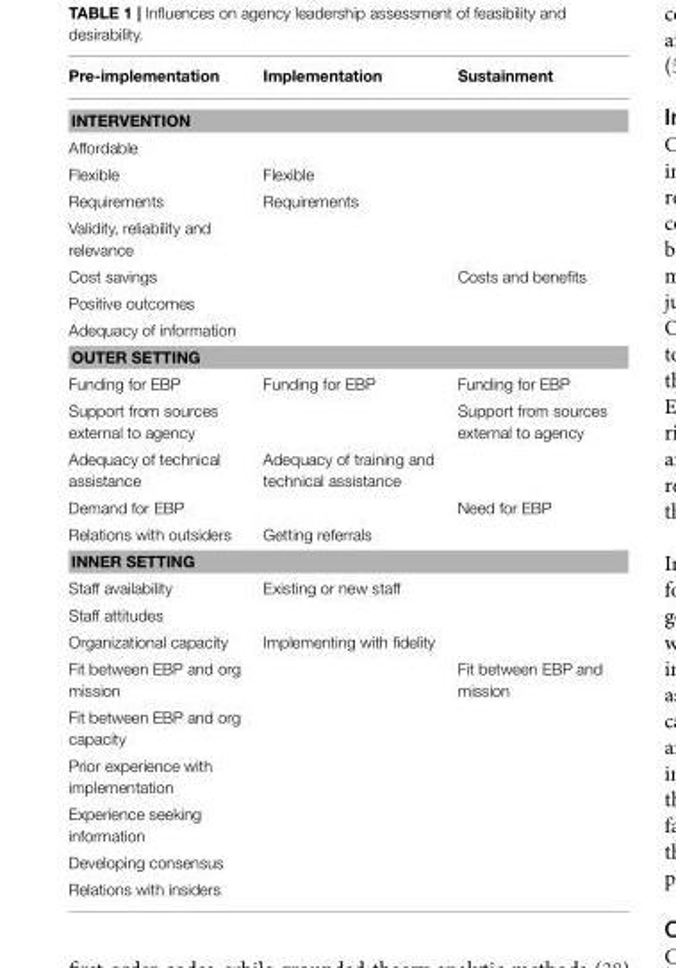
<table><thead><tr><td>Pre-implementation</td><td>Implementation</td><td>Sustainment</td></tr></thead><tbody><tr><td colspan="3">INTERVENTION</td></tr><tr><td colspan="3">Affordable</td></tr><tr><td>Flexible</td><td>Flexible</td><td></td></tr><tr><td>Requirements</td><td>Requirements</td><td></td></tr><tr><td colspan="3">Validity, reliability and relevance</td></tr><tr><td>Cost savings</td><td></td><td>Costs and benefits</td></tr><tr><td colspan="3">Positive outcomes</td></tr><tr><td colspan="3">Adequacy of information</td></tr><tr><td colspan="3">OUTER SETTING</td></tr><tr><td>Funding for EBP</td><td>Funding for EBP</td><td>Funding for EBP</td></tr><tr><td>Support from sources external to agency</td><td></td><td>Support from sources external to agency</td></tr><tr><td>Adequacy of technical assistance</td><td>Adequacy of training and technical assistance</td><td></td></tr><tr><td>Demand for EBP</td><td></td><td>Need for EBP</td></tr><tr><td>Relations with outsiders</td><td>Getting referrals</td><td></td></tr><tr><td colspan="3">INNER SETTING</td></tr><tr><td>Staff availability</td><td>Existing or new staff</td><td></td></tr><tr><td colspan="3">Staff attitudes</td></tr><tr><td>Organizational capacity</td><td>Implementing with fidelity</td><td></td></tr><tr><td>Fit between EBP and org mission</td><td></td><td>Fit between EBP and mission</td></tr><tr><td colspan="3">Fit between EBP and org capacity</td></tr><tr><td colspan="3">Prior experience with implementation</td></tr><tr><td colspan="3">Experience seeking information</td></tr><tr><td colspan="3">Developing consensus</td></tr><tr><td>Relations with insiders</td><td></td><td></td></tr></tbody></table>